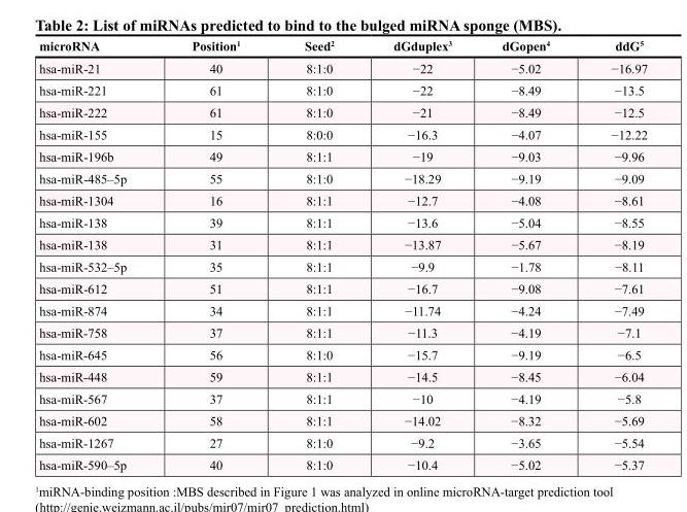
<table><thead><tr><td>microRNA</td><td>Position<sup>1</sup></td><td>Seed<sup>2</sup></td><td>dGduplex<sup>3</sup></td><td>dGopen<sup>4</sup></td><td>ddG<sup>5</sup></td></tr></thead><tbody><tr><td>hsa-miR-21</td><td>40</td><td>8:1:0</td><td>−22</td><td>−5.02</td><td>−16.97</td></tr><tr><td>hsa-miR-221</td><td>61</td><td>8:1:0</td><td>−22</td><td>−8.49</td><td>−13.5</td></tr><tr><td>hsa-miR-222</td><td>61</td><td>8:1:0</td><td>−21</td><td>−8.49</td><td>−12.5</td></tr><tr><td>hsa-miR-155</td><td>15</td><td>8:0:0</td><td>−16.3</td><td>−4.07</td><td>−12.22</td></tr><tr><td>hsa-miR-196b</td><td>49</td><td>8:1:1</td><td>−19</td><td>−9.03</td><td>−9.96</td></tr><tr><td>hsa-miR-485–5p</td><td>55</td><td>8:1:0</td><td>−18.29</td><td>−9.19</td><td>−9.09</td></tr><tr><td>hsa-miR-1304</td><td>16</td><td>8:1:1</td><td>−12.7</td><td>−4.08</td><td>−8.61</td></tr><tr><td>hsa-miR-138</td><td>39</td><td>8:1:1</td><td>−13.6</td><td>−5.04</td><td>−8.55</td></tr><tr><td>hsa-miR-138</td><td>31</td><td>8:1:1</td><td>−13.87</td><td>−5.67</td><td>−8.19</td></tr><tr><td>hsa-miR-532–5p</td><td>35</td><td>8:1:1</td><td>−9.9</td><td>−1.78</td><td>−8.11</td></tr><tr><td>hsa-miR-612</td><td>51</td><td>8:1:1</td><td>−16.7</td><td>−9.08</td><td>−7.61</td></tr><tr><td>hsa-miR-874</td><td>34</td><td>8:1:1</td><td>−11.74</td><td>−4.24</td><td>−7.49</td></tr><tr><td>hsa-miR-758</td><td>37</td><td>8:1:1</td><td>−11.3</td><td>−4.19</td><td>−7.1</td></tr><tr><td>hsa-miR-645</td><td>56</td><td>8:1:0</td><td>−15.7</td><td>−9.19</td><td>−6.5</td></tr><tr><td>hsa-miR-448</td><td>59</td><td>8:1:1</td><td>−14.5</td><td>−8.45</td><td>−6.04</td></tr><tr><td>hsa-miR-567</td><td>37</td><td>8:1:1</td><td>−10</td><td>−4.19</td><td>−5.8</td></tr><tr><td>hsa-miR-602</td><td>58</td><td>8:1:1</td><td>−14.02</td><td>−8.32</td><td>−5.69</td></tr><tr><td>hsa-miR-1267</td><td>27</td><td>8:1:0</td><td>−9.2</td><td>−3.65</td><td>−5.54</td></tr><tr><td>hsa-miR-590–5p</td><td>40</td><td>8:1:0</td><td>−10.4</td><td>−5.02</td><td>−5.37</td></tr></tbody></table>